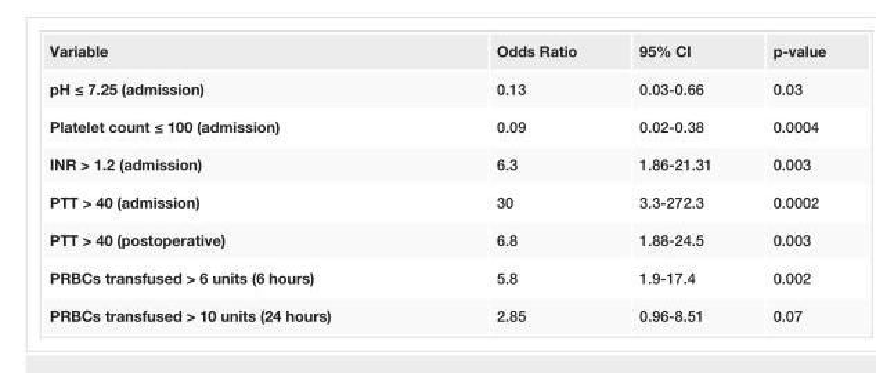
<table><tbody><tr><td>Variable</td><td>Odds Ratio</td><td>95% CI</td><td>p-value</td></tr><tr><td>pH ≤ 7.25 (admission)</td><td>0.13</td><td>0.03-0.66</td><td>0.03</td></tr><tr><td>Platelet count ≤ 100 (admission)</td><td>0.09</td><td>0.02-0.38</td><td>0.0004</td></tr><tr><td>INR &gt; 1.2 (admission)</td><td>6.3</td><td>1.86-21.31</td><td>0.003</td></tr><tr><td>PTT &gt; 40 (admission)</td><td>30</td><td>3.3-272.3</td><td>0.0002</td></tr><tr><td>PTT &gt; 40 (postoperative)</td><td>6.8</td><td>1.88-24.5</td><td>0.003</td></tr><tr><td>PRBCs transfused &gt; 6 units (6 hours)</td><td>5.8</td><td>1.9-17.4</td><td>0.002</td></tr><tr><td>PRBCs transfused &gt; 10 units (24 hours)</td><td>2.85</td><td>0.96-8.51</td><td>0.07</td></tr></tbody></table>